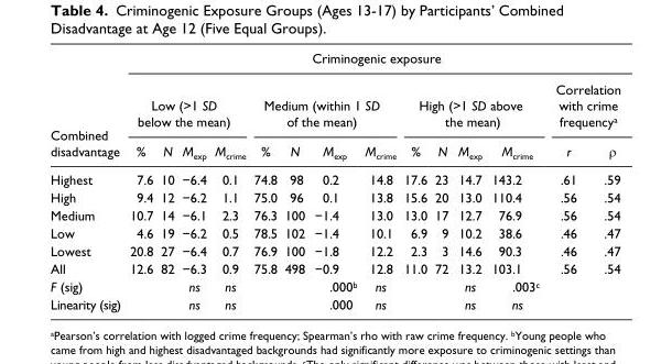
<table><thead><tr><td rowspan="3">Combined disadvantage</td><td colspan="14">Criminogenic exposure</td></tr><tr><td colspan="4">Low (&gt;1 SD below the mean)</td><td colspan="4">Medium (within 1 SD of the mean)</td><td colspan="4">High (&gt;1 SD above the mean)</td><td colspan="2">Correlation with crime frequency<sup>a</sup></td></tr><tr><td>%</td><td>N</td><td>M<sub>exp</sub></td><td>M<sub>crime</sub></td><td>%</td><td>N</td><td>M<sub>exp</sub></td><td>M<sub>crime</sub></td><td>%</td><td>N</td><td>M<sub>exp</sub></td><td>M<sub>crime</sub></td><td>r</td><td>ρ</td></tr></thead><tbody><tr><td>Highest</td><td>7.6</td><td>10</td><td>−6.4</td><td>0.1</td><td>74.8</td><td>98</td><td>0.2</td><td>14.8</td><td>17.6</td><td>23</td><td>14.7</td><td>143.2</td><td>.61</td><td>.59</td></tr><tr><td>High</td><td>9.4</td><td>12</td><td>−6.2</td><td>1.1</td><td>75.0</td><td>96</td><td>0.1</td><td>13.8</td><td>15.6</td><td>20</td><td>13.0</td><td>110.4</td><td>.56</td><td>.54</td></tr><tr><td>Medium</td><td>10.7</td><td>14</td><td>−6.1</td><td>2.3</td><td>76.3</td><td>100</td><td>−1.4</td><td>13.0</td><td>13.0</td><td>17</td><td>12.7</td><td>76.9</td><td>.56</td><td>.54</td></tr><tr><td>Low</td><td>4.6</td><td>19</td><td>−6.2</td><td>0.5</td><td>78.5</td><td>102</td><td>−1.4</td><td>10.1</td><td>6.9</td><td>9</td><td>10.2</td><td>38.6</td><td>.46</td><td>.47</td></tr><tr><td>Lowest</td><td>20.8</td><td>27</td><td>−6.4</td><td>0.7</td><td>76.9</td><td>100</td><td>−1.8</td><td>12.2</td><td>2.3</td><td>3</td><td>14.6</td><td>90.3</td><td>.46</td><td>.47</td></tr><tr><td>All</td><td>12.6</td><td>82</td><td>−6.3</td><td>0.9</td><td>75.8</td><td>498</td><td>−0.9</td><td>12.8</td><td>11.0</td><td>72</td><td>13.2</td><td>103.1</td><td>.56</td><td>.54</td></tr><tr><td>F (sig)</td><td></td><td></td><td>ns</td><td>ns</td><td></td><td></td><td>.000<sup>b</sup></td><td>ns</td><td></td><td></td><td>ns</td><td>.003<sup>c</sup></td><td></td><td></td></tr><tr><td>Linearity (sig)</td><td></td><td></td><td>ns</td><td>ns</td><td></td><td></td><td>.000</td><td>ns</td><td></td><td></td><td>ns</td><td>ns</td><td></td><td></td></tr></tbody></table>